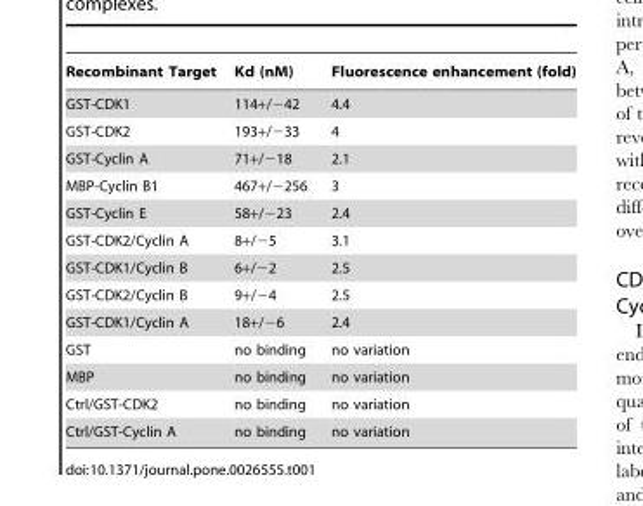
<table><thead><tr><td>Recombinant Target</td><td>Kd (nM)</td><td>Fluorescence enhancement (fold)</td></tr></thead><tbody><tr><td>GST-CDK1</td><td>114+/−42</td><td>4.4</td></tr><tr><td>GST-CDK2</td><td>193+/−33</td><td>4</td></tr><tr><td>GST-Cyclin A</td><td>71+/−18</td><td>2.1</td></tr><tr><td>MBP-Cyclin B1</td><td>467+/−256</td><td>3</td></tr><tr><td>GST-Cyclin E</td><td>58+/−23</td><td>2.4</td></tr><tr><td>GST-CDK2/Cyclin A</td><td>8+/−5</td><td>3.1</td></tr><tr><td>GST-CDK1/Cyclin B</td><td>6+/−2</td><td>2.5</td></tr><tr><td>GST-CDK2/Cyclin B</td><td>9+/−4</td><td>2.5</td></tr><tr><td>GST-CDK1/Cyclin A</td><td>18+/−6</td><td>2.4</td></tr><tr><td>GST</td><td>no binding</td><td>no variation</td></tr><tr><td>MBP</td><td>no binding</td><td>no variation</td></tr><tr><td>Ctrl/GST-CDK2</td><td>no binding</td><td>no variation</td></tr><tr><td>Ctrl/GST-Cyclin A</td><td>no binding</td><td>no variation</td></tr></tbody></table>